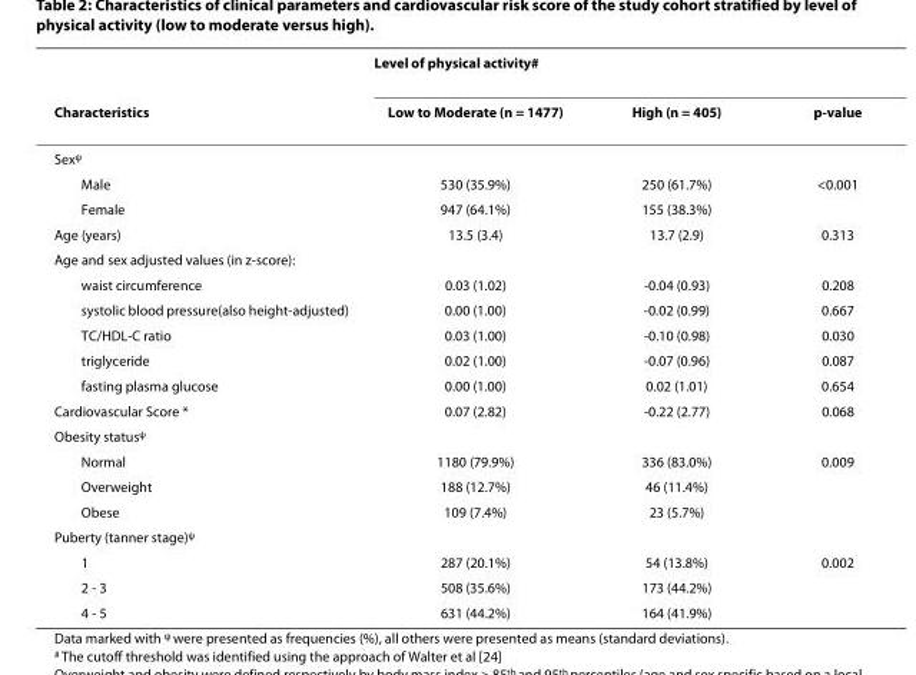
<table><thead><tr><td rowspan="2">Characteristics</td><td colspan="3">Level of physical activity<sup>#</sup></td></tr><tr><td>Low to Moderate (n = 1477)</td><td>High (n = 405)</td><td>p-value</td></tr></thead><tbody><tr><td colspan="4">Sex<sup>ψ</sup></td></tr><tr><td>Male</td><td>530 (35.9%)</td><td>250 (61.7%)</td><td>&lt;0.001</td></tr><tr><td>Female</td><td>947 (64.1%)</td><td>155 (38.3%)</td><td></td></tr><tr><td>Age (years)</td><td>13.5 (3.4)</td><td>13.7 (2.9)</td><td>0.313</td></tr><tr><td colspan="4">Age and sex adjusted values (in z-score):</td></tr><tr><td>waist circumference</td><td>0.03 (1.02)</td><td>-0.04 (0.93)</td><td>0.208</td></tr><tr><td>systolic blood pressure(also height-adjusted)</td><td>0.00 (1.00)</td><td>-0.02 (0.99)</td><td>0.667</td></tr><tr><td>TC/HDL-C ratio</td><td>0.03 (1.00)</td><td>-0.10 (0.98)</td><td>0.030</td></tr><tr><td>triglyceride</td><td>0.02 (1.00)</td><td>-0.07 (0.96)</td><td>0.087</td></tr><tr><td>fasting plasma glucose</td><td>0.00 (1.00)</td><td>0.02 (1.01)</td><td>0.654</td></tr><tr><td>Cardiovascular Score *</td><td>0.07 (2.82)</td><td>-0.22 (2.77)</td><td>0.068</td></tr><tr><td colspan="4">Obesity status<sup>ψ</sup></td></tr><tr><td>Normal</td><td>1180 (79.9%)</td><td>336 (83.0%)</td><td>0.009</td></tr><tr><td>Overweight</td><td>188 (12.7%)</td><td>46 (11.4%)</td><td></td></tr><tr><td>Obese</td><td>109 (7.4%)</td><td>23 (5.7%)</td><td></td></tr><tr><td colspan="4">Puberty (tanner stage)<sup>ψ</sup></td></tr><tr><td>1</td><td>287 (20.1%)</td><td>54 (13.8%)</td><td>0.002</td></tr><tr><td>2 - 3</td><td>508 (35.6%)</td><td>173 (44.2%)</td><td></td></tr><tr><td>4 - 5</td><td>631 (44.2%)</td><td>164 (41.9%)</td><td></td></tr></tbody></table>